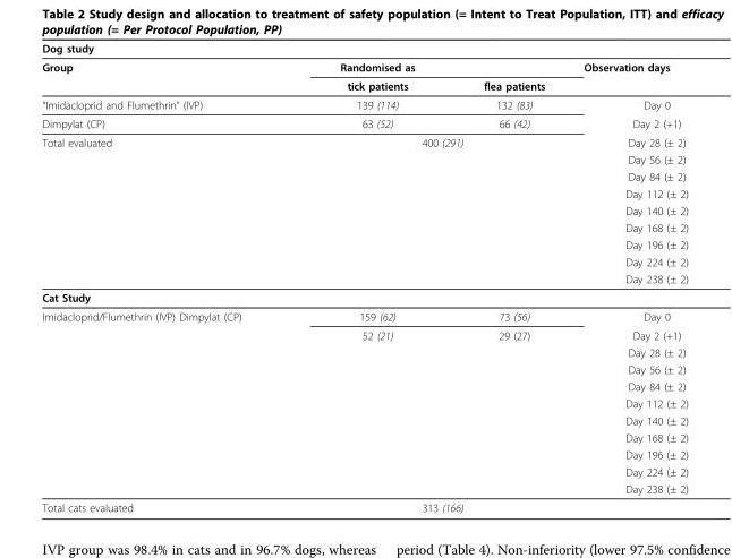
<table><thead><tr><td colspan="4">Dog study</td></tr><tr><td>Group</td><td>Randomised as</td><td></td><td>Observation days</td></tr></thead><tbody><tr><td></td><td>tick patients</td><td>flea patients</td><td></td></tr><tr><td>“Imidacloprid and Flumethrin” (IVP)</td><td>139 (114)</td><td>132 (83)</td><td>Day 0</td></tr><tr><td>Dimpylat (CP)</td><td>63 (52)</td><td>66 (42)</td><td>Day 2 (+1)</td></tr><tr><td rowspan="9">Total evaluated</td><td colspan="2">400 (291)</td><td>Day 28 (± 2)</td></tr><tr><td></td><td></td><td>Day 56 (± 2)</td></tr><tr><td></td><td></td><td>Day 84 (± 2)</td></tr><tr><td></td><td></td><td>Day 112 (± 2)</td></tr><tr><td></td><td></td><td>Day 140 (± 2)</td></tr><tr><td></td><td></td><td>Day 168 (± 2)</td></tr><tr><td></td><td></td><td>Day 196 (± 2)</td></tr><tr><td></td><td></td><td>Day 224 (± 2)</td></tr><tr><td></td><td></td><td>Day 238 (± 2)</td></tr><tr><td colspan="4">Cat Study</td></tr><tr><td rowspan="11">Imidacloprid/Flumethrin (IVP) Dimpylat (CP)</td><td>159 (62)</td><td>73 (56)</td><td>Day 0</td></tr><tr><td>52 (21)</td><td>29 (27)</td><td>Day 2 (+1)</td></tr><tr><td></td><td></td><td>Day 28 (± 2)</td></tr><tr><td></td><td></td><td>Day 56 (± 2)</td></tr><tr><td></td><td></td><td>Day 84 (± 2)</td></tr><tr><td></td><td></td><td>Day 112 (± 2)</td></tr><tr><td></td><td></td><td>Day 140 (± 2)</td></tr><tr><td></td><td></td><td>Day 168 (± 2)</td></tr><tr><td></td><td></td><td>Day 196 (± 2)</td></tr><tr><td></td><td></td><td>Day 224 (± 2)</td></tr><tr><td></td><td></td><td>Day 238 (± 2)</td></tr><tr><td>Total cats evaluated</td><td colspan="2">313 (166)</td><td></td></tr></tbody></table>